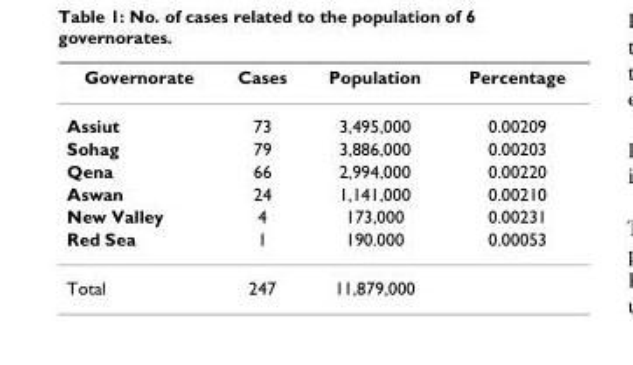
<table><thead><tr><td>Governorate</td><td>Cases</td><td>Population</td><td>Percentage</td></tr></thead><tbody><tr><td>Assiut</td><td>73</td><td>3,495,000</td><td>0.00209</td></tr><tr><td>Sohag</td><td>79</td><td>3,886,000</td><td>0.00203</td></tr><tr><td>Qena</td><td>66</td><td>2,994,000</td><td>0.00220</td></tr><tr><td>Aswan</td><td>24</td><td>1,141,000</td><td>0.00210</td></tr><tr><td>New Valley</td><td>4</td><td>173,000</td><td>0.00231</td></tr><tr><td>Red Sea</td><td>1</td><td>190.000</td><td>0.00053</td></tr><tr><td>Total</td><td>247</td><td>11,879,000</td><td></td></tr></tbody></table>